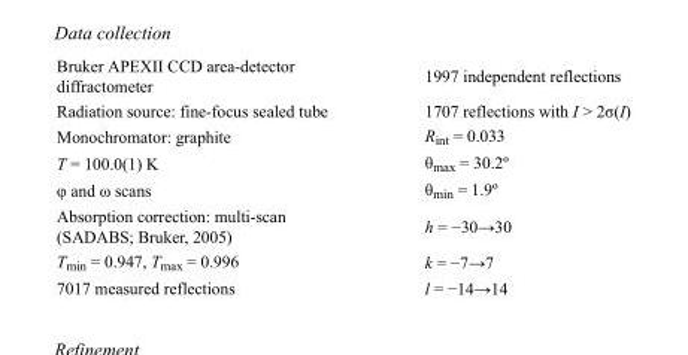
<table><tbody><tr><td>Bruker APEXII CCD area-detector diffractometer</td><td>1997 independent reflections</td></tr><tr><td>Radiation source: fine-focus sealed tube</td><td>1707 reflections with I &gt; 2σ(I)</td></tr><tr><td>Monochromator: graphite</td><td>R<sub>int</sub> = 0.033</td></tr><tr><td>T = 100.0(1) K</td><td>θ<sub>max</sub> = 30.2º</td></tr><tr><td>φ and ω scans</td><td>θ<sub>min</sub> = 1.9º</td></tr><tr><td>Absorption correction: multi-scan (SADABS; Bruker, 2005)</td><td>h = −30→30</td></tr><tr><td>T<sub>min</sub> = 0.947, T<sub>max</sub> = 0.996</td><td>k = −7→7</td></tr><tr><td>7017 measured reflections</td><td>l = −14→14</td></tr></tbody></table>